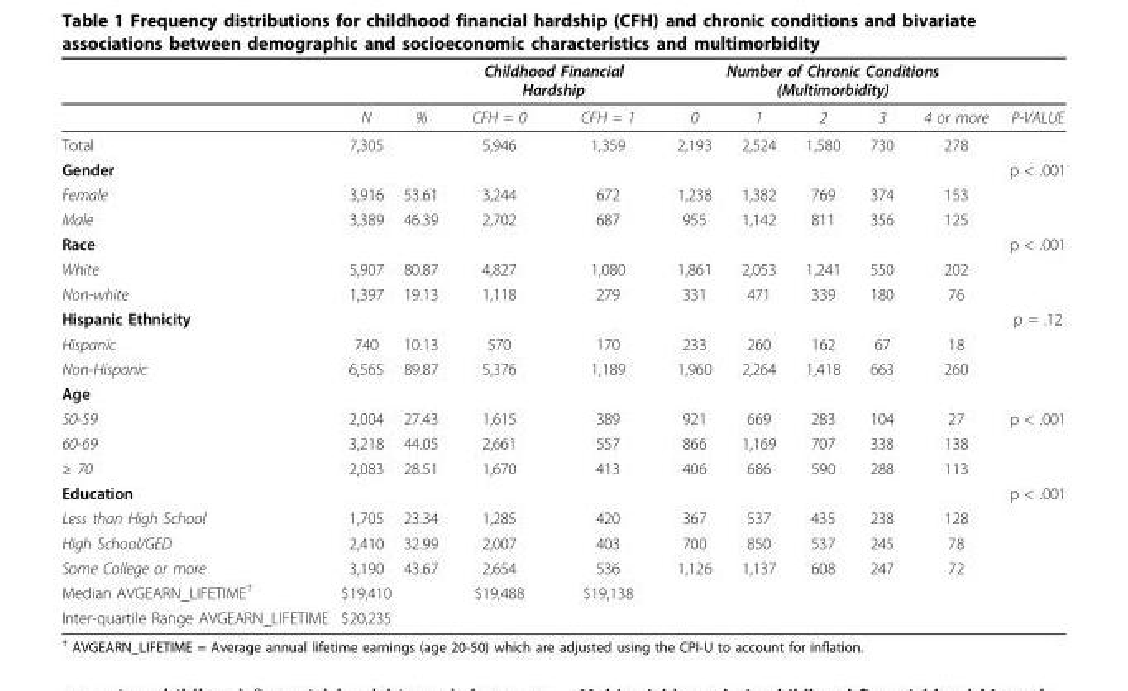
<table><thead><tr><td rowspan="2"></td><td rowspan="2">N</td><td rowspan="2">%</td><td colspan="2">Childhood Financial Hardship</td><td colspan="5">Number of Chronic Conditions (Multimorbidity)</td><td rowspan="2">P-VALUE</td></tr><tr><td>CFH = 0</td><td>CFH = 1</td><td>0</td><td>1</td><td>2</td><td>3</td><td>4 or more</td></tr></thead><tbody><tr><td>Total</td><td>7,305</td><td></td><td>5,946</td><td>1,359</td><td>2,193</td><td>2,524</td><td>1,580</td><td>730</td><td>278</td><td></td></tr><tr><td>Gender</td><td></td><td></td><td></td><td></td><td></td><td></td><td></td><td></td><td></td><td>p &lt; .001</td></tr><tr><td>Female</td><td>3,916</td><td>53.61</td><td>3,244</td><td>672</td><td>1,238</td><td>1,382</td><td>769</td><td>374</td><td>153</td><td></td></tr><tr><td>Male</td><td>3,389</td><td>46.39</td><td>2,702</td><td>687</td><td>955</td><td>1,142</td><td>811</td><td>356</td><td>125</td><td></td></tr><tr><td>Race</td><td></td><td></td><td></td><td></td><td></td><td></td><td></td><td></td><td></td><td>p &lt; .001</td></tr><tr><td>White</td><td>5,907</td><td>80.87</td><td>4,827</td><td>1,080</td><td>1,861</td><td>2,053</td><td>1,241</td><td>550</td><td>202</td><td></td></tr><tr><td>Non-white</td><td>1,397</td><td>19.13</td><td>1,118</td><td>279</td><td>331</td><td>471</td><td>339</td><td>180</td><td>76</td><td></td></tr><tr><td>Hispanic Ethnicity</td><td></td><td></td><td></td><td></td><td></td><td></td><td></td><td></td><td></td><td>p = .12</td></tr><tr><td>Hispanic</td><td>740</td><td>10.13</td><td>570</td><td>170</td><td>233</td><td>260</td><td>162</td><td>67</td><td>18</td><td></td></tr><tr><td>Non-Hispanic</td><td>6,565</td><td>89.87</td><td>5,376</td><td>1,189</td><td>1,960</td><td>2,264</td><td>1,418</td><td>663</td><td>260</td><td></td></tr><tr><td colspan="11">Age</td></tr><tr><td>50-59</td><td>2,004</td><td>27.43</td><td>1,615</td><td>389</td><td>921</td><td>669</td><td>283</td><td>104</td><td>27</td><td>p &lt; .001</td></tr><tr><td>60-69</td><td>3,218</td><td>44.05</td><td>2,661</td><td>557</td><td>866</td><td>1,169</td><td>707</td><td>338</td><td>138</td><td></td></tr><tr><td>≥ 70</td><td>2,083</td><td>28.51</td><td>1,670</td><td>413</td><td>406</td><td>686</td><td>590</td><td>288</td><td>113</td><td></td></tr><tr><td>Education</td><td></td><td></td><td></td><td></td><td></td><td></td><td></td><td></td><td></td><td>p &lt; .001</td></tr><tr><td>Less than High School</td><td>1,705</td><td>23.34</td><td>1,285</td><td>420</td><td>367</td><td>537</td><td>435</td><td>238</td><td>128</td><td></td></tr><tr><td>High School/GED</td><td>2,410</td><td>32.99</td><td>2,007</td><td>403</td><td>700</td><td>850</td><td>537</td><td>245</td><td>78</td><td></td></tr><tr><td>Some College or more</td><td>3,190</td><td>43.67</td><td>2,654</td><td>536</td><td>1,126</td><td>1,137</td><td>608</td><td>247</td><td>72</td><td></td></tr><tr><td>Median AVGEARN_LIFETIME<sup>†</sup></td><td>$19,410</td><td></td><td>$19,488</td><td>$19,138</td><td></td><td></td><td></td><td></td><td></td><td></td></tr><tr><td>Inter-quartile Range AVGEARN_LIFETIME</td><td>$20,235</td><td></td><td></td><td></td><td></td><td></td><td></td><td></td><td></td><td></td></tr></tbody></table>